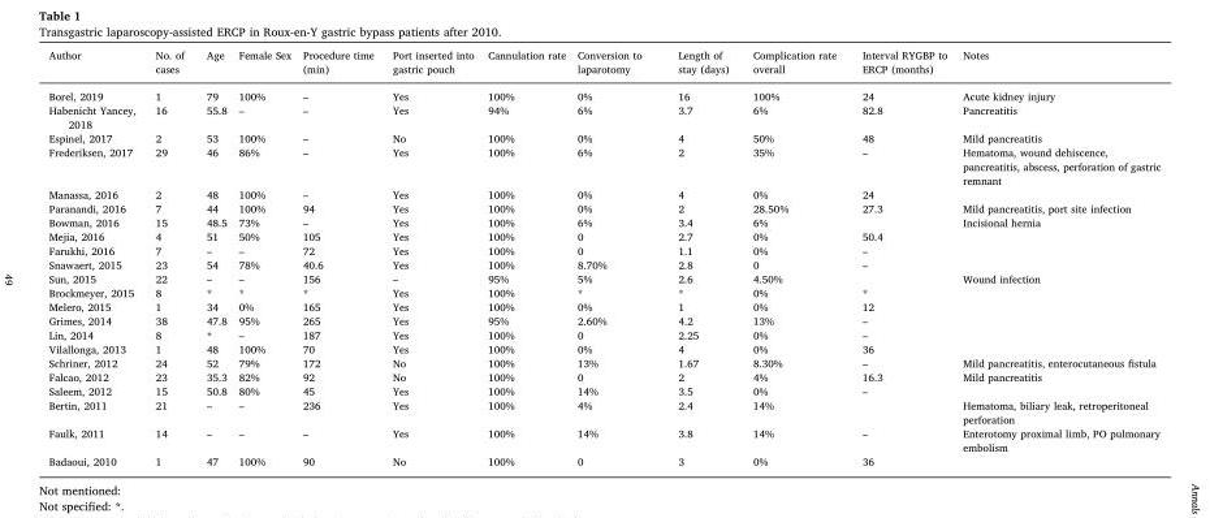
<table><thead><tr><td>Author</td><td>No. of cases</td><td>Age</td><td>Female Sex</td><td>Procedure time (min)</td><td>Port inserted into gastric pouch</td><td>Cannulation rate</td><td>Conversion to laparotomy</td><td>Length of stay (days)</td><td>Complication rate overall</td><td>Interval RYGBP to ERCP (months)</td><td>Notes</td></tr></thead><tbody><tr><td>Borel, 2019</td><td>1</td><td>79</td><td>100%</td><td>–</td><td>Yes</td><td>100%</td><td>0%</td><td>16</td><td>100%</td><td>24</td><td>Acute kidney injury</td></tr><tr><td>Habenicht Yancey, 2018</td><td>16</td><td>55.8</td><td>–</td><td>–</td><td>Yes</td><td>94%</td><td>6%</td><td>3.7</td><td>6%</td><td>82.8</td><td>Pancreatitis</td></tr><tr><td>Espinel, 2017</td><td>2</td><td>53</td><td>100%</td><td>–</td><td>No</td><td>100%</td><td>0%</td><td>4</td><td>50%</td><td>48</td><td>Mild pancreatitis</td></tr><tr><td>Frederiksen, 2017</td><td>29</td><td>46</td><td>86%</td><td>–</td><td>Yes</td><td>100%</td><td>6%</td><td>2</td><td>35%</td><td>–</td><td>Hematoma, wound dehiscence, pancreatitis, abscess, perforation of gastric remnant</td></tr><tr><td>Manassa, 2016</td><td>2</td><td>48</td><td>100%</td><td>–</td><td>Yes</td><td>100%</td><td>0%</td><td>4</td><td>0%</td><td>24</td><td></td></tr><tr><td>Paranandi, 2016</td><td>7</td><td>44</td><td>100%</td><td>94</td><td>Yes</td><td>100%</td><td>0%</td><td>2</td><td>28.50%</td><td>27.3</td><td>Mild pancreatitis, port site infection</td></tr><tr><td>Bowman, 2016</td><td>15</td><td>48.5</td><td>73%</td><td>–</td><td>Yes</td><td>100%</td><td>6%</td><td>3.4</td><td>6%</td><td></td><td>Incisional hernia</td></tr><tr><td>Mejia, 2016</td><td>4</td><td>51</td><td>50%</td><td>105</td><td>Yes</td><td>100%</td><td>0</td><td>2.7</td><td>0%</td><td>50.4</td><td></td></tr><tr><td>Farukhi, 2016</td><td>7</td><td>–</td><td>–</td><td>72</td><td>Yes</td><td>100%</td><td>0</td><td>1.1</td><td>0%</td><td>–</td><td></td></tr><tr><td>Snawaert, 2015</td><td>23</td><td>54</td><td>78%</td><td>40.6</td><td>Yes</td><td>100%</td><td>8.70%</td><td>2.8</td><td>0</td><td>–</td><td></td></tr><tr><td>Sun, 2015</td><td>22</td><td>–</td><td>–</td><td>156</td><td>–</td><td>95%</td><td>5%</td><td>2.6</td><td>4.50%</td><td></td><td>Wound infection</td></tr><tr><td>Brockmeyer, 2015</td><td>8</td><td>*</td><td>*</td><td>*</td><td>Yes</td><td>100%</td><td>*</td><td>*</td><td>0%</td><td>*</td><td></td></tr><tr><td>Melero, 2015</td><td>1</td><td>34</td><td>0%</td><td>165</td><td>Yes</td><td>100%</td><td>0%</td><td>1</td><td>0%</td><td>12</td><td></td></tr><tr><td>Grimes, 2014</td><td>38</td><td>47.8</td><td>95%</td><td>265</td><td>Yes</td><td>95%</td><td>2.60%</td><td>4.2</td><td>13%</td><td>–</td><td></td></tr><tr><td>Lin, 2014</td><td>8</td><td>*</td><td>–</td><td>187</td><td>Yes</td><td>100%</td><td>0</td><td>2.25</td><td>0%</td><td>–</td><td></td></tr><tr><td>Vilallonga, 2013</td><td>1</td><td>48</td><td>100%</td><td>70</td><td>Yes</td><td>100%</td><td>0%</td><td>4</td><td>0%</td><td>36</td><td></td></tr><tr><td>Schriner, 2012</td><td>24</td><td>52</td><td>79%</td><td>172</td><td>No</td><td>100%</td><td>13%</td><td>1.67</td><td>8.30%</td><td>–</td><td>Mild pancreatitis, enterocutaneous fistula</td></tr><tr><td>Falcao, 2012</td><td>23</td><td>35.3</td><td>82%</td><td>92</td><td>No</td><td>100%</td><td>0</td><td>2</td><td>4%</td><td>16.3</td><td>Mild pancreatitis</td></tr><tr><td>Saleem, 2012</td><td>15</td><td>50.8</td><td>80%</td><td>45</td><td>Yes</td><td>100%</td><td>14%</td><td>3.5</td><td>0%</td><td>–</td><td></td></tr><tr><td>Bertin, 2011</td><td>21</td><td>–</td><td>–</td><td>236</td><td>Yes</td><td>100%</td><td>4%</td><td>2.4</td><td>14%</td><td></td><td>Hematoma, biliary leak, retroperitoneal perforation</td></tr><tr><td>Faulk, 2011</td><td>14</td><td>–</td><td>–</td><td>–</td><td>Yes</td><td>100%</td><td>14%</td><td>3.8</td><td>14%</td><td>–</td><td>Enterotomy proximal limb, PO pulmonary embolism</td></tr><tr><td>Badaoui, 2010</td><td>1</td><td>47</td><td>100%</td><td>90</td><td>No</td><td>100%</td><td>0</td><td>3</td><td>0%</td><td>36</td><td></td></tr></tbody></table>